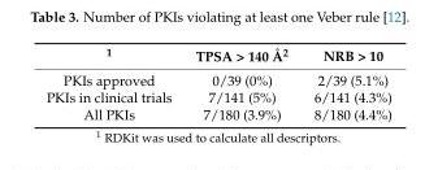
<table><thead><tr><td><sup>1</sup></td><td>TPSA &gt; 140 Å<sup>2</sup></td><td>NRB &gt; 10</td></tr></thead><tbody><tr><td>PKIs approved</td><td>0/39 (0%)</td><td>2/39 (5.1%)</td></tr><tr><td>PKIs in clinical trials</td><td>7/141 (5%)</td><td>6/141 (4.3%)</td></tr><tr><td>All PKIs</td><td>7/180 (3.9%)</td><td>8/180 (4.4%)</td></tr></tbody></table>